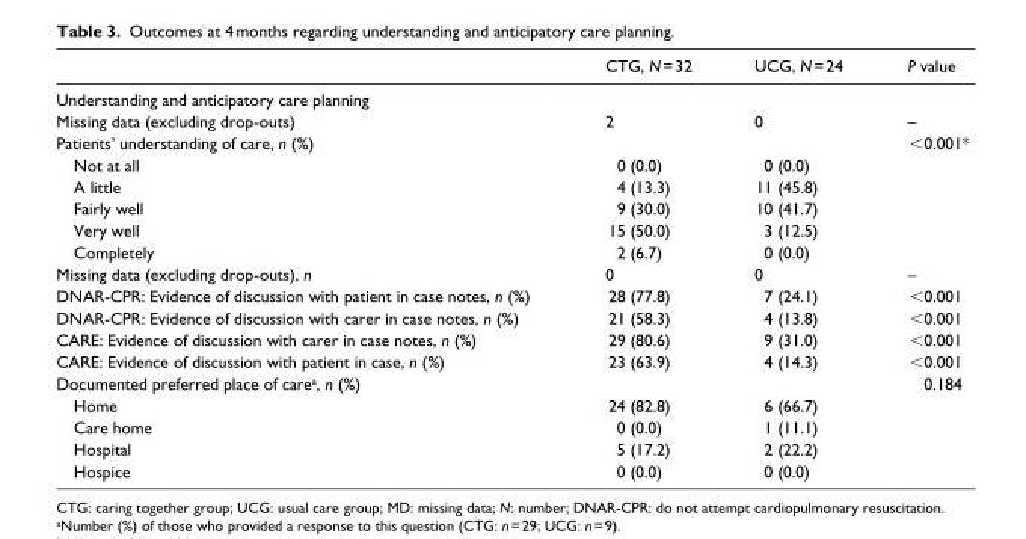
<table><thead><tr><td></td><td>CTG, N = 32</td><td>UCG, N = 24</td><td>P value</td></tr></thead><tbody><tr><td colspan="4">Understanding and anticipatory care planning</td></tr><tr><td>Missing data (excluding drop-outs)</td><td>2</td><td>0</td><td>–</td></tr><tr><td>Patients’ understanding of care, n (%)</td><td></td><td></td><td>&lt;0.001*</td></tr><tr><td>Not at all</td><td>0 (0.0)</td><td>0 (0.0)</td><td></td></tr><tr><td>A little</td><td>4 (13.3)</td><td>11 (45.8)</td><td></td></tr><tr><td>Fairly well</td><td>9 (30.0)</td><td>10 (41.7)</td><td></td></tr><tr><td>Very well</td><td>15 (50.0)</td><td>3 (12.5)</td><td></td></tr><tr><td>Completely</td><td>2 (6.7)</td><td>0 (0.0)</td><td></td></tr><tr><td>Missing data (excluding drop-outs), n</td><td>0</td><td>0</td><td>–</td></tr><tr><td>DNAR-CPR: Evidence of discussion with patient in case notes, n (%)</td><td>28 (77.8)</td><td>7 (24.1)</td><td>&lt;0.001</td></tr><tr><td>DNAR-CPR: Evidence of discussion with carer in case notes, n (%)</td><td>21 (58.3)</td><td>4 (13.8)</td><td>&lt;0.001</td></tr><tr><td>CARE: Evidence of discussion with carer in case notes, n (%)</td><td>29 (80.6)</td><td>9 (31.0)</td><td>&lt;0.001</td></tr><tr><td>CARE: Evidence of discussion with patient in case, n (%)</td><td>23 (63.9)</td><td>4 (14.3)</td><td>&lt;0.001</td></tr><tr><td>Documented preferred place of care<sup>a</sup>, n (%)</td><td></td><td></td><td>0.184</td></tr><tr><td>Home</td><td>24 (82.8)</td><td>6 (66.7)</td><td></td></tr><tr><td>Care home</td><td>0 (0.0)</td><td>1 (11.1)</td><td></td></tr><tr><td>Hospital</td><td>5 (17.2)</td><td>2 (22.2)</td><td></td></tr><tr><td>Hospice</td><td>0 (0.0)</td><td>0 (0.0)</td><td></td></tr></tbody></table>